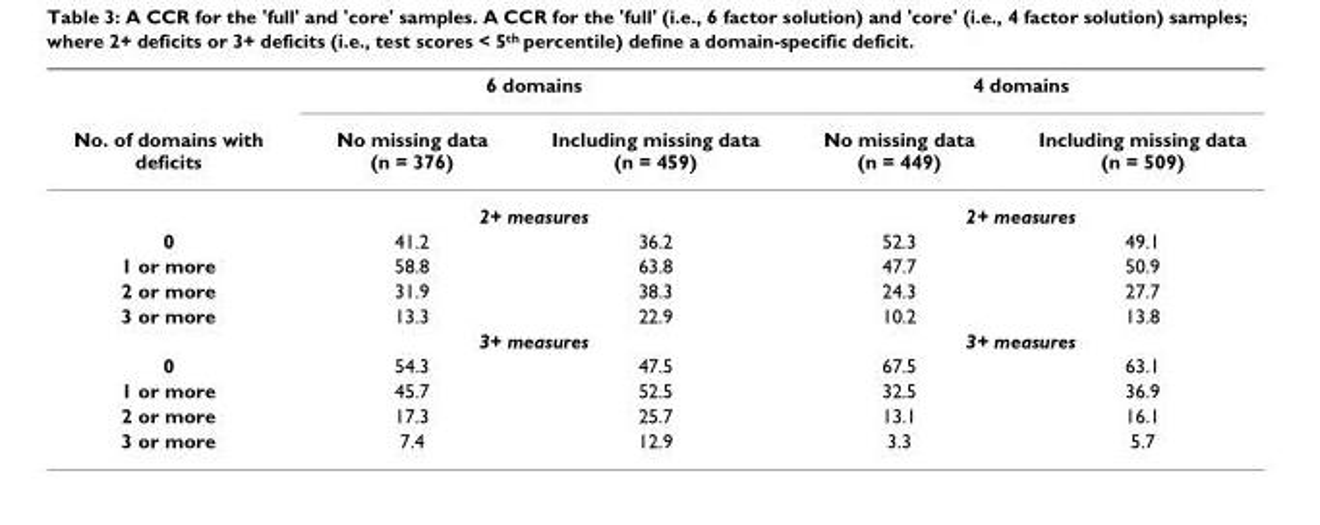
<table><thead><tr><td rowspan="2">No. of domains with deficits</td><td colspan="2">6 domains</td><td colspan="2">4 domains</td></tr><tr><td>No missing data (n = 376)</td><td>Including missing data (n = 459)</td><td>No missing data (n = 449)</td><td>Including missing data (n = 509)</td></tr></thead><tbody><tr><td></td><td colspan="2">2+ measures</td><td colspan="2">2+ measures</td></tr><tr><td>0</td><td>41.2</td><td>36.2</td><td>52.3</td><td>49.1</td></tr><tr><td>1 or more</td><td>58.8</td><td>63.8</td><td>47.7</td><td>50.9</td></tr><tr><td>2 or more</td><td>31.9</td><td>38.3</td><td>24.3</td><td>27.7</td></tr><tr><td rowspan="2">3 or more</td><td>13.3</td><td>22.9</td><td>10.2</td><td>13.8</td></tr><tr><td colspan="2">3+ measures</td><td colspan="2">3+ measures</td></tr><tr><td>0</td><td>54.3</td><td>47.5</td><td>67.5</td><td>63.1</td></tr><tr><td>1 or more</td><td>45.7</td><td>52.5</td><td>32.5</td><td>36.9</td></tr><tr><td>2 or more</td><td>17.3</td><td>25.7</td><td>13.1</td><td>16.1</td></tr><tr><td>3 or more</td><td>7.4</td><td>12.9</td><td>3.3</td><td>5.7</td></tr></tbody></table>